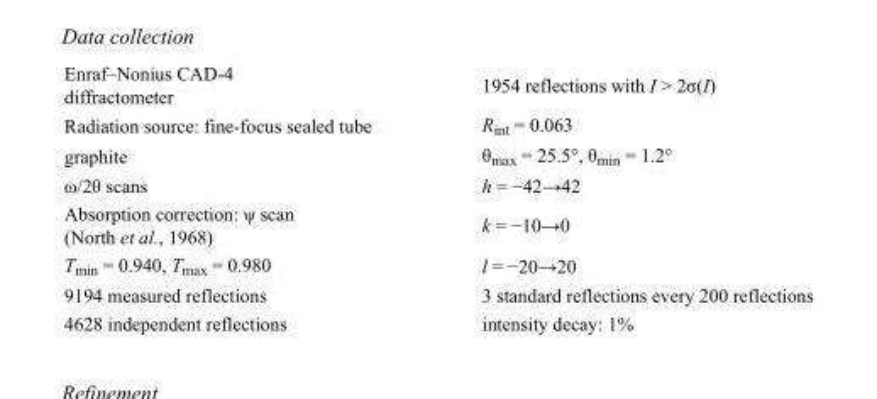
<table><tbody><tr><td>Enraf–Nonius CAD-4 diffractometer</td><td>1954 reflections with I &gt; 2σ(I)</td></tr><tr><td>Radiation source: fine-focus sealed tube</td><td>R<sub>int</sub> = 0.063</td></tr><tr><td>graphite</td><td>θ<sub>max</sub> = 25.5°, θ<sub>min</sub> = 1.2°</td></tr><tr><td>ω/2θ scans</td><td>h = −42→42</td></tr><tr><td>Absorption correction: ψ scan (North et al., 1968)</td><td>k = −10→0</td></tr><tr><td>T<sub>min</sub> = 0.940, T<sub>max</sub> = 0.980</td><td>l = −20→20</td></tr><tr><td>9194 measured reflections</td><td>3 standard reflections every 200 reflections</td></tr><tr><td>4628 independent reflections</td><td>intensity decay: 1%</td></tr></tbody></table>